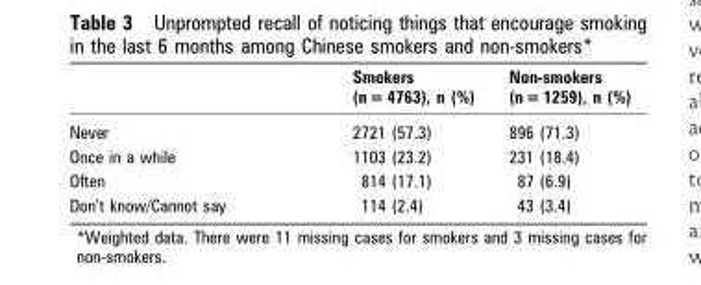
<table><thead><tr><td></td><td>Smokers (n = 4763), n (%)</td><td>Non-smokers (n = 1259), n (%)</td></tr></thead><tbody><tr><td>Never</td><td>2721 (57.3)</td><td>896 (71.3)</td></tr><tr><td>Once in a while</td><td>1103 (23.2)</td><td>231 (18.4)</td></tr><tr><td>Often</td><td>814 (17.1)</td><td>87 (6.9)</td></tr><tr><td>Don’t know/Cannot say</td><td>114 (2.4)</td><td>43 (3.4)</td></tr></tbody></table>